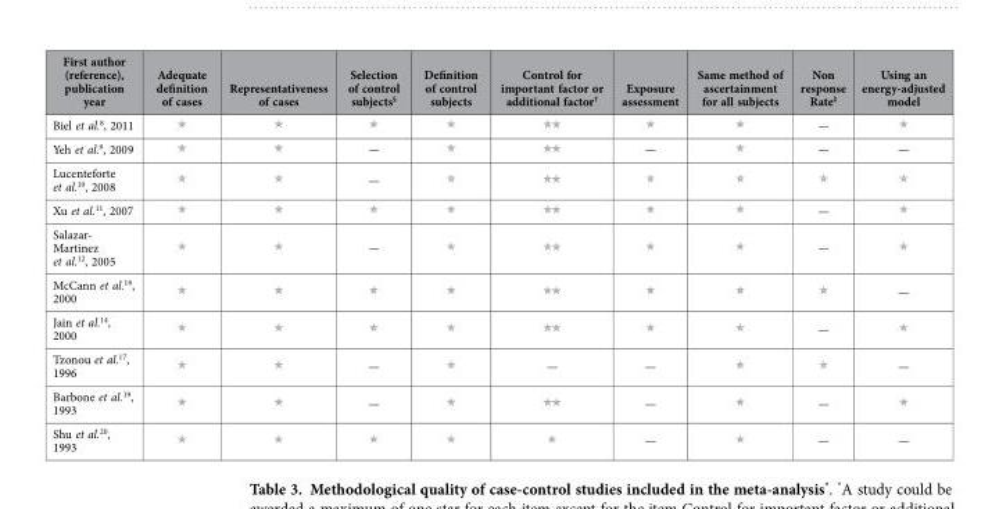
<table><thead><tr><td>First author (reference), publication year</td><td>Adequate definition of cases</td><td>Representativeness of cases</td><td>Selection of control subjects§</td><td>Definition of control subjects</td><td>Control for important factor or additional factor†</td><td>Exposure assessment</td><td>Same method of ascertainment for all subjects</td><td>Non response Rate‡</td><td>Using an energy-adjusted model</td></tr></thead><tbody><tr><td>Biel et al.<sup>8</sup>, 2011</td><td></td><td></td><td></td><td></td><td></td><td></td><td></td><td>—</td><td></td></tr><tr><td>Yeh et al.<sup>9</sup>, 2009</td><td></td><td></td><td>—</td><td></td><td></td><td>—</td><td></td><td>—</td><td>—</td></tr><tr><td>Lucenteforte et al.<sup>10</sup>, 2008</td><td></td><td></td><td>—</td><td></td><td></td><td></td><td></td><td></td><td></td></tr><tr><td>Xu et al.<sup>11</sup>, 2007</td><td></td><td></td><td></td><td></td><td></td><td></td><td></td><td>—</td><td></td></tr><tr><td>Salazar- Martinez et al.<sup>12</sup>, 2005</td><td></td><td></td><td>—</td><td></td><td></td><td></td><td></td><td>—</td><td></td></tr><tr><td>McCann et al.<sup>16</sup>, 2000</td><td></td><td></td><td></td><td></td><td></td><td></td><td></td><td></td><td>—</td></tr><tr><td>Jain et al.<sup>14</sup>, 2000</td><td></td><td></td><td></td><td></td><td></td><td></td><td></td><td>—</td><td></td></tr><tr><td>Tzonou et al.<sup>17</sup>, 1996</td><td></td><td></td><td>—</td><td></td><td>—</td><td>—</td><td></td><td></td><td>—</td></tr><tr><td>Barbone et al.<sup>19</sup>, 1993</td><td></td><td></td><td>—</td><td></td><td></td><td>—</td><td></td><td>—</td><td></td></tr><tr><td>Shu et al.<sup>20</sup>, 1993</td><td></td><td></td><td></td><td></td><td></td><td>—</td><td></td><td>—</td><td>—</td></tr></tbody></table>